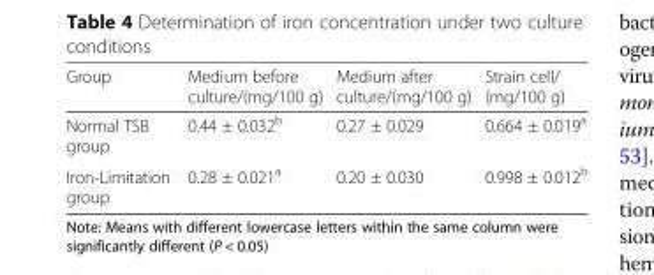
<table><thead><tr><td>Group</td><td>Medium before culture/(mg/100 g)</td><td>Medium after culture/(mg/100 g)</td><td>Strain cell/ (mg/100 g)</td></tr></thead><tbody><tr><td>Normal TSB group</td><td>0.44 ± 0.032<sup>b</sup></td><td>0.27 ± 0.029</td><td>0.664 ± 0.019<sup>a</sup></td></tr><tr><td>Iron-Limitation group</td><td>0.28 ± 0.021<sup>a</sup></td><td>0.20 ± 0.030</td><td>0.998 ± 0.012<sup>b</sup></td></tr></tbody></table>